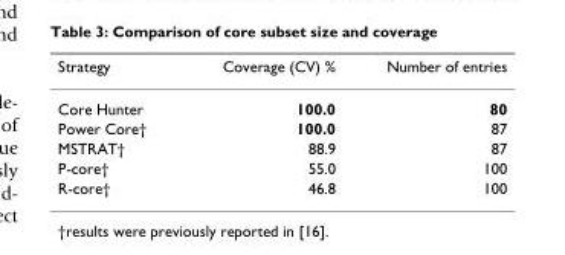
<table><thead><tr><td>Strategy</td><td>Coverage (CV) %</td><td>Number of entries</td></tr></thead><tbody><tr><td>Core Hunter</td><td>100.0</td><td>80</td></tr><tr><td>Power Core†</td><td>100.0</td><td>87</td></tr><tr><td>MSTRAT†</td><td>88.9</td><td>87</td></tr><tr><td>P-core†</td><td>55.0</td><td>100</td></tr><tr><td>R-core†</td><td>46.8</td><td>100</td></tr></tbody></table>